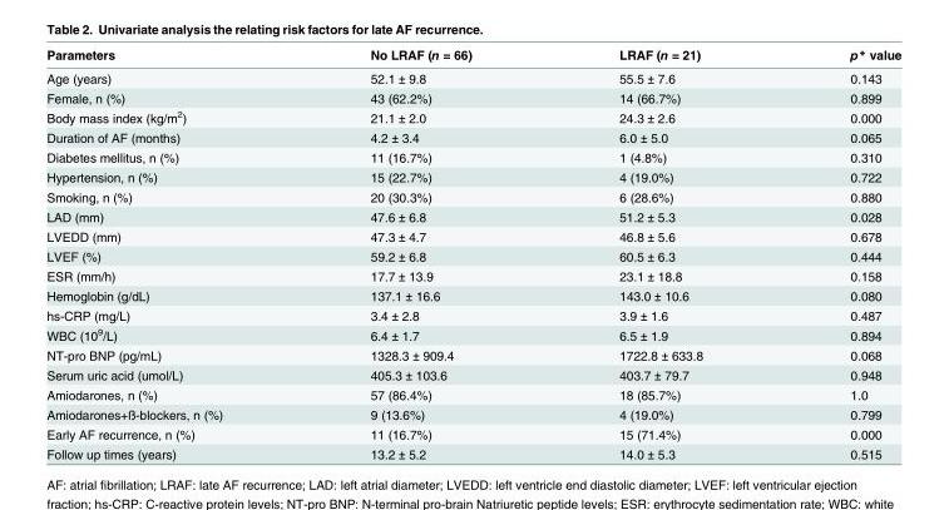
<table><thead><tr><td>Parameters</td><td>No LRAF (n = 66)</td><td>LRAF (n = 21)</td><td>p* value</td></tr></thead><tbody><tr><td>Age (years)</td><td>52.1 ± 9.8</td><td>55.5 ± 7.6</td><td>0.143</td></tr><tr><td>Female, n (%)</td><td>43 (62.2%)</td><td>14 (66.7%)</td><td>0.899</td></tr><tr><td>Body mass index (kg/m<sup>2</sup>)</td><td>21.1 ± 2.0</td><td>24.3 ± 2.6</td><td>0.000</td></tr><tr><td>Duration of AF (months)</td><td>4.2 ± 3.4</td><td>6.0 ± 5.0</td><td>0.065</td></tr><tr><td>Diabetes mellitus, n (%)</td><td>11 (16.7%)</td><td>1 (4.8%)</td><td>0.310</td></tr><tr><td>Hypertension, n (%)</td><td>15 (22.7%)</td><td>4 (19.0%)</td><td>0.722</td></tr><tr><td>Smoking, n (%)</td><td>20 (30.3%)</td><td>6 (28.6%)</td><td>0.880</td></tr><tr><td>LAD (mm)</td><td>47.6 ± 6.8</td><td>51.2 ± 5.3</td><td>0.028</td></tr><tr><td>LVEDD (mm)</td><td>47.3 ± 4.7</td><td>46.8 ± 5.6</td><td>0.678</td></tr><tr><td>LVEF (%)</td><td>59.2 ± 6.8</td><td>60.5 ± 6.3</td><td>0.444</td></tr><tr><td>ESR (mm/h)</td><td>17.7 ± 13.9</td><td>23.1 ± 18.8</td><td>0.158</td></tr><tr><td>Hemoglobin (g/dL)</td><td>137.1 ± 16.6</td><td>143.0 ± 10.6</td><td>0.080</td></tr><tr><td>hs-CRP (mg/L)</td><td>3.4 ± 2.8</td><td>3.9 ± 1.6</td><td>0.487</td></tr><tr><td>WBC (10<sup>9</sup>/L)</td><td>6.4 ± 1.7</td><td>6.5 ± 1.9</td><td>0.894</td></tr><tr><td>NT-pro BNP (pg/mL)</td><td>1328.3 ± 909.4</td><td>1722.8 ± 633.8</td><td>0.068</td></tr><tr><td>Serum uric acid (umol/L)</td><td>405.3 ± 103.6</td><td>403.7 ± 79.7</td><td>0.948</td></tr><tr><td>Amiodarones, n (%)</td><td>57 (86.4%)</td><td>18 (85.7%)</td><td>1.0</td></tr><tr><td>Amiodarones+ß-blockers, n (%)</td><td>9 (13.6%)</td><td>4 (19.0%)</td><td>0.799</td></tr><tr><td>Early AF recurrence, n (%)</td><td>11 (16.7%)</td><td>15 (71.4%)</td><td>0.000</td></tr><tr><td>Follow up times (years)</td><td>13.2 ± 5.2</td><td>14.0 ± 5.3</td><td>0.515</td></tr></tbody></table>